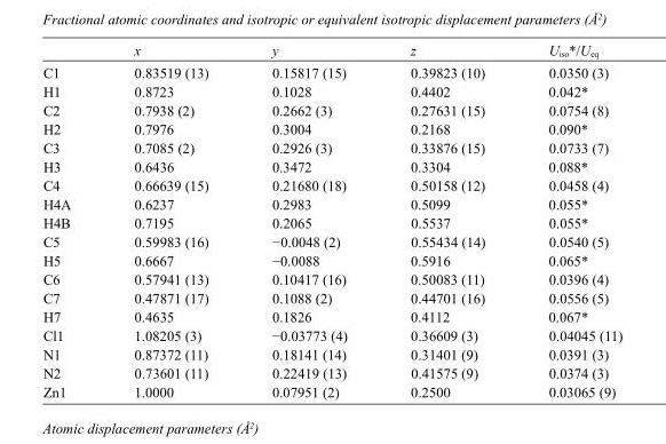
<table><thead><tr><td></td><td>x</td><td>y</td><td>z</td><td>U<sub>iso</sub>*/U<sub>eq</sub></td></tr></thead><tbody><tr><td>C1</td><td>0.83519 (13)</td><td>0.15817 (15)</td><td>0.39823 (10)</td><td>0.0350 (3)</td></tr><tr><td>H1</td><td>0.8723</td><td>0.1028</td><td>0.4402</td><td>0.042*</td></tr><tr><td>C2</td><td>0.7938 (2)</td><td>0.2662 (3)</td><td>0.27631 (15)</td><td>0.0754 (8)</td></tr><tr><td>H2</td><td>0.7976</td><td>0.3004</td><td>0.2168</td><td>0.090*</td></tr><tr><td>C3</td><td>0.7085 (2)</td><td>0.2926 (3)</td><td>0.33876 (15)</td><td>0.0733 (7)</td></tr><tr><td>H3</td><td>0.6436</td><td>0.3472</td><td>0.3304</td><td>0.088*</td></tr><tr><td>C4</td><td>0.66639 (15)</td><td>0.21680 (18)</td><td>0.50158 (12)</td><td>0.0458 (4)</td></tr><tr><td>H4A</td><td>0.6237</td><td>0.2983</td><td>0.5099</td><td>0.055*</td></tr><tr><td>H4B</td><td>0.7195</td><td>0.2065</td><td>0.5537</td><td>0.055*</td></tr><tr><td>C5</td><td>0.59983 (16)</td><td>−0.0048 (2)</td><td>0.55434 (14)</td><td>0.0540 (5)</td></tr><tr><td>H5</td><td>0.6667</td><td>−0.0088</td><td>0.5916</td><td>0.065*</td></tr><tr><td>C6</td><td>0.57941 (13)</td><td>0.10417 (16)</td><td>0.50083 (11)</td><td>0.0396 (4)</td></tr><tr><td>C7</td><td>0.47871 (17)</td><td>0.1088 (2)</td><td>0.44701 (16)</td><td>0.0556 (5)</td></tr><tr><td>H7</td><td>0.4635</td><td>0.1826</td><td>0.4112</td><td>0.067*</td></tr><tr><td>Cl1</td><td>1.08205 (3)</td><td>−0.03773 (4)</td><td>0.36609 (3)</td><td>0.04045 (11)</td></tr><tr><td>N1</td><td>0.87372 (11)</td><td>0.18141 (14)</td><td>0.31401 (9)</td><td>0.0391 (3)</td></tr><tr><td>N2</td><td>0.73601 (11)</td><td>0.22419 (13)</td><td>0.41575 (9)</td><td>0.0374 (3)</td></tr><tr><td>Zn1</td><td>1.0000</td><td>0.07951 (2)</td><td>0.2500</td><td>0.03065 (9)</td></tr></tbody></table>